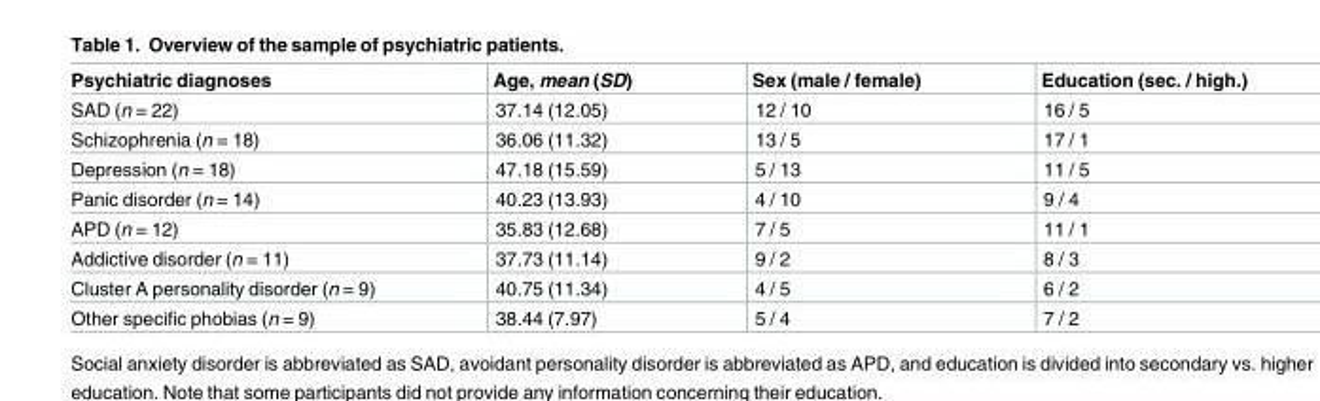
<table><thead><tr><td>Psychiatric diagnoses</td><td>Age, mean (SD)</td><td>Sex (male / female)</td><td>Education (sec. / high.)</td></tr></thead><tbody><tr><td>SAD (n = 22)</td><td>37.14 (12.05)</td><td>12 / 10</td><td>16 / 5</td></tr><tr><td>Schizophrenia (n = 18)</td><td>36.06 (11.32)</td><td>13 / 5</td><td>17 / 1</td></tr><tr><td>Depression (n = 18)</td><td>47.18 (15.59)</td><td>5 / 13</td><td>11 / 5</td></tr><tr><td>Panic disorder (n = 14)</td><td>40.23 (13.93)</td><td>4 / 10</td><td>9 / 4</td></tr><tr><td>APD (n = 12)</td><td>35.83 (12.68)</td><td>7 / 5</td><td>11 / 1</td></tr><tr><td>Addictive disorder (n = 11)</td><td>37.73 (11.14)</td><td>9 / 2</td><td>8 / 3</td></tr><tr><td>Cluster A personality disorder (n = 9)</td><td>40.75 (11.34)</td><td>4 / 5</td><td>6 / 2</td></tr><tr><td>Other specific phobias (n = 9)</td><td>38.44 (7.97)</td><td>5 / 4</td><td>7 / 2</td></tr></tbody></table>